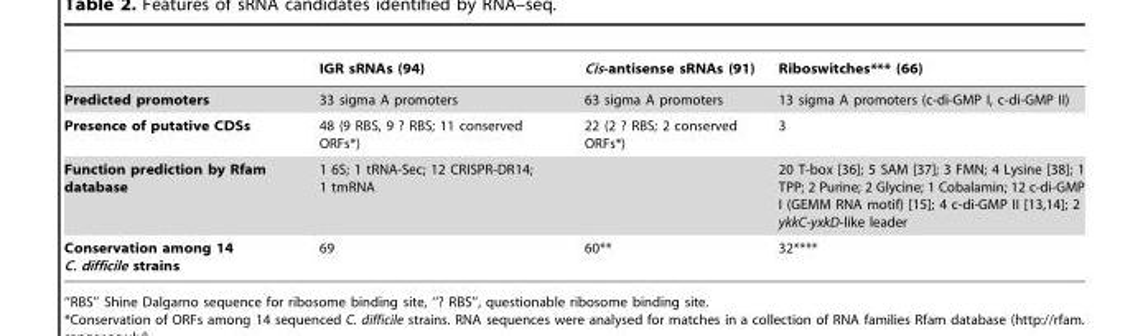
<table><thead><tr><td></td><td>IGR sRNAs (94)</td><td>Cis-antisense sRNAs (91)</td><td>Riboswitches*** (66)</td></tr></thead><tbody><tr><td>Predicted promoters</td><td>33 sigma A promoters</td><td>63 sigma A promoters</td><td>13 sigma A promoters (c-di-GMP I, c-di-GMP II)</td></tr><tr><td>Presence of putative CDSs</td><td>48 (9 RBS, 9 ? RBS; 11 conserved ORFs*)</td><td>22 (2 ? RBS; 2 conserved ORFs*)</td><td>3</td></tr><tr><td>Function prediction by Rfam database</td><td>1 6S; 1 tRNA-Sec; 12 CRISPR-DR14; 1 tmRNA</td><td></td><td>20 T-box [36]; 5 SAM [37]; 3 FMN; 4 Lysine [38]; 1 TPP; 2 Purine; 2 Glycine; 1 Cobalamin; 12 c-di-GMP I (GEMM RNA motif) [15]; 4 c-di-GMP II [13,14]; 2 ykkC-yxkD-like leader</td></tr><tr><td>Conservation among 14 C. difficile strains</td><td>69</td><td>60**</td><td>32****</td></tr></tbody></table>